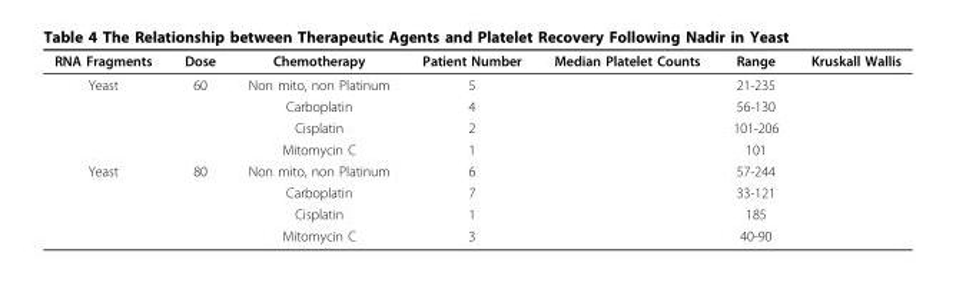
<table><thead><tr><td>RNA Fragments</td><td>Dose</td><td>Chemotherapy</td><td>Patient Number</td><td>Median Platelet Counts</td><td>Range</td><td>Kruskall Wallis</td></tr></thead><tbody><tr><td rowspan="4">Yeast</td><td>60</td><td>Non mito, non Platinum</td><td>5</td><td></td><td>21-235</td><td></td></tr><tr><td></td><td>Carboplatin</td><td>4</td><td></td><td>56-130</td><td></td></tr><tr><td></td><td>Cisplatin</td><td>2</td><td></td><td>101-206</td><td></td></tr><tr><td></td><td>Mitomycin C</td><td>1</td><td></td><td>101</td><td></td></tr><tr><td rowspan="4">Yeast</td><td>80</td><td>Non mito, non Platinum</td><td>6</td><td></td><td>57-244</td><td></td></tr><tr><td></td><td>Carboplatin</td><td>7</td><td></td><td>33-121</td><td></td></tr><tr><td></td><td>Cisplatin</td><td>1</td><td></td><td>185</td><td></td></tr><tr><td></td><td>Mitomycin C</td><td>3</td><td></td><td>40-90</td><td></td></tr></tbody></table>